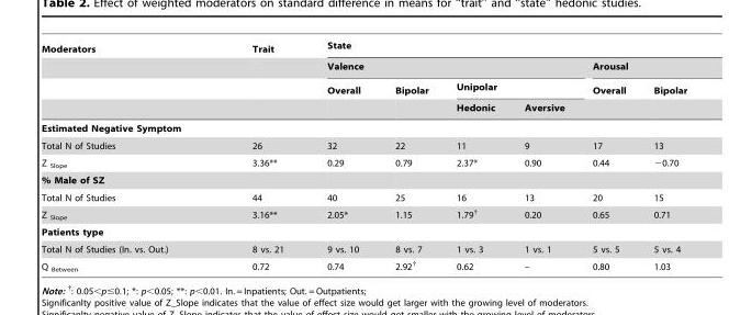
<table><thead><tr><td rowspan="4">Moderators</td><td rowspan="4">Trait</td><td colspan="6">State</td></tr><tr><td colspan="4">Valence</td><td colspan="2">Arousal</td></tr><tr><td rowspan="2">Overall</td><td rowspan="2">Bipolar</td><td colspan="2">Unipolar</td><td rowspan="2">Overall</td><td rowspan="2">Bipolar</td></tr><tr><td>Hedonic</td><td>Aversive</td></tr></thead><tbody><tr><td colspan="8">Estimated Negative Symptom</td></tr><tr><td>Total N of Studies</td><td>26</td><td>32</td><td>22</td><td>11</td><td>9</td><td>17</td><td>13</td></tr><tr><td>Z <sub>Slope</sub></td><td>3.36**</td><td>0.29</td><td>0.79</td><td>2.37*</td><td>0.90</td><td>0.44</td><td>−0.70</td></tr><tr><td colspan="8">% Male of SZ</td></tr><tr><td>Total N of Studies</td><td>44</td><td>40</td><td>25</td><td>16</td><td>13</td><td>20</td><td>15</td></tr><tr><td>Z <sub>Slope</sub></td><td>3.16**</td><td>2.05*</td><td>1.15</td><td>1.79<sup>†</sup></td><td>0.20</td><td>0.65</td><td>0.71</td></tr><tr><td colspan="8">Patients type</td></tr><tr><td>Total N of Studies (In. vs. Out.)</td><td>8 vs. 21</td><td>9 vs. 10</td><td>8 vs. 7</td><td>1 vs. 3</td><td>1 vs. 1</td><td>5 vs. 5</td><td>5 vs. 4</td></tr><tr><td>Q <sub>Between</sub></td><td>0.72</td><td>0.74</td><td>2.92<sup>†</sup></td><td>0.62</td><td>–</td><td>0.80</td><td>1.03</td></tr></tbody></table>